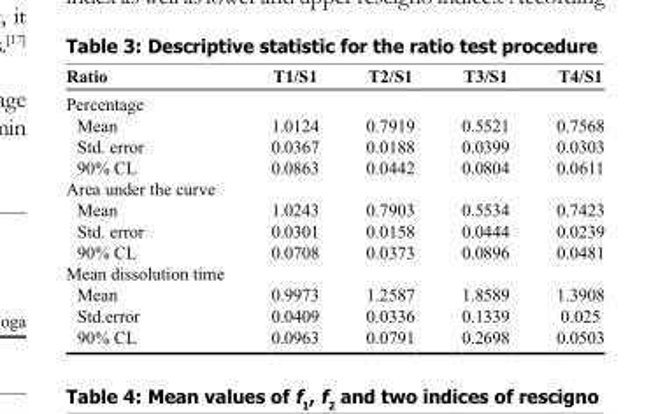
<table><thead><tr><td>Ratio</td><td>T1/S1</td><td>T2/S1</td><td>T3/S1</td><td>T4/S1</td></tr></thead><tbody><tr><td colspan="5">Percentage</td></tr><tr><td>Mean</td><td>1.0124</td><td>0.7919</td><td>0.5521</td><td>0.7568</td></tr><tr><td>Std. error</td><td>0.0367</td><td>0.0188</td><td>0.0399</td><td>0.0303</td></tr><tr><td>90% CL</td><td>0.0863</td><td>0.0442</td><td>0.0804</td><td>0.0611</td></tr><tr><td colspan="5">Area under the curve</td></tr><tr><td>Mean</td><td>1.0243</td><td>0.7903</td><td>0.5534</td><td>0.7423</td></tr><tr><td>Std. error</td><td>0.0301</td><td>0.0158</td><td>0.0444</td><td>0.0239</td></tr><tr><td>90% CL</td><td>0.0708</td><td>0.0373</td><td>0.0896</td><td>0.0481</td></tr><tr><td colspan="5">Mean dissolution time</td></tr><tr><td>Mean</td><td>0.9973</td><td>1.2587</td><td>1.8589</td><td>1.3908</td></tr><tr><td>Std.error</td><td>0.0409</td><td>0.0336</td><td>0.1339</td><td>0.025</td></tr><tr><td>90% CL</td><td>0.0963</td><td>0.0791</td><td>0.2698</td><td>0.0503</td></tr></tbody></table>